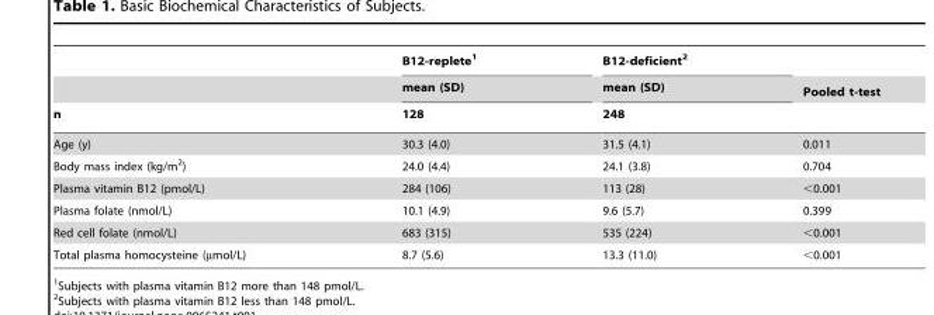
<table><thead><tr><td rowspan="3">n</td><td rowspan="3">B12-replete<sup>1</sup> mean (SD) 128</td><td rowspan="3">B12-deficient<sup>2</sup> mean (SD) 248</td><td rowspan="3">Pooled t-test</td></tr><tr></tr><tr></tr></thead><tbody><tr><td>Age (y)</td><td>30.3 (4.0)</td><td>31.5 (4.1)</td><td>0.011</td></tr><tr><td>Body mass index (kg/m<sup>2</sup>)</td><td>24.0 (4.4)</td><td>24.1 (3.8)</td><td>0.704</td></tr><tr><td>Plasma vitamin B12 (pmol/L)</td><td>284 (106)</td><td>113 (28)</td><td>&lt;0.001</td></tr><tr><td>Plasma folate (nmol/L)</td><td>10.1 (4.9)</td><td>9.6 (5.7)</td><td>0.399</td></tr><tr><td>Red cell folate (nmol/L)</td><td>683 (315)</td><td>535 (224)</td><td>&lt;0.001</td></tr><tr><td>Total plasma homocysteine (µmol/L)</td><td>8.7 (5.6)</td><td>13.3 (11.0)</td><td>&lt;0.001</td></tr></tbody></table>